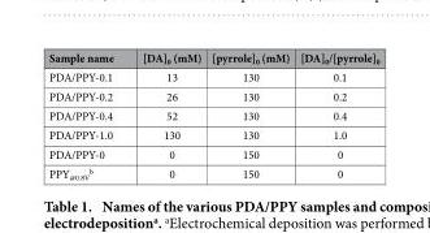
<table><thead><tr><td>Sample name</td><td>[DA]<sub>0</sub> (mM)</td><td>[pyrrole]<sub>0</sub> (mM)</td><td>[DA]<sub>0</sub>/[pyrrole]<sub>0</sub></td></tr></thead><tbody><tr><td>PDA/PPY-0.1</td><td>13</td><td>130</td><td>0.1</td></tr><tr><td>PDA/PPY-0.2</td><td>26</td><td>130</td><td>0.2</td></tr><tr><td>PDA/PPY-0.4</td><td>52</td><td>130</td><td>0.4</td></tr><tr><td>PDA/PPY-1.0</td><td>130</td><td>130</td><td>1.0</td></tr><tr><td>PDA/PPY-0</td><td>0</td><td>150</td><td>0</td></tr><tr><td>PPY<sub>@0.8V</sub> <sup>b</sup></td><td>0</td><td>150</td><td>0</td></tr></tbody></table>